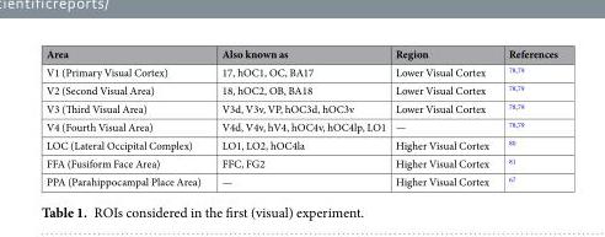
<table><thead><tr><td>Area</td><td>Also known as</td><td>Region</td><td>References</td></tr></thead><tbody><tr><td>V1 (Primary Visual Cortex)</td><td>17, hOC1, OC, BA17</td><td>Lower Visual Cortex</td><td><sup>78,79</sup></td></tr><tr><td>V2 (Second Visual Area)</td><td>18, hOC2, OB, BA18</td><td>Lower Visual Cortex</td><td><sup>78,79</sup></td></tr><tr><td>V3 (Third Visual Area)</td><td>V3d, V3v, VP, hOC3d, hOC3v</td><td>Lower Visual Cortex</td><td><sup>78,79</sup></td></tr><tr><td>V4 (Fourth Visual Area)</td><td>V4d, V4v, hV4, hOC4v, hOC4lp, LO1</td><td>—</td><td><sup>78,79</sup></td></tr><tr><td>LOC (Lateral Occipital Complex)</td><td>LO1, LO2, hOC4la</td><td>Higher Visual Cortex</td><td><sup>80</sup></td></tr><tr><td>FFA (Fusiform Face Area)</td><td>FFC, FG2</td><td>Higher Visual Cortex</td><td><sup>81</sup></td></tr><tr><td>PPA (Parahippocampal Place Area)</td><td>—</td><td>Higher Visual Cortex</td><td><sup>67</sup></td></tr></tbody></table>